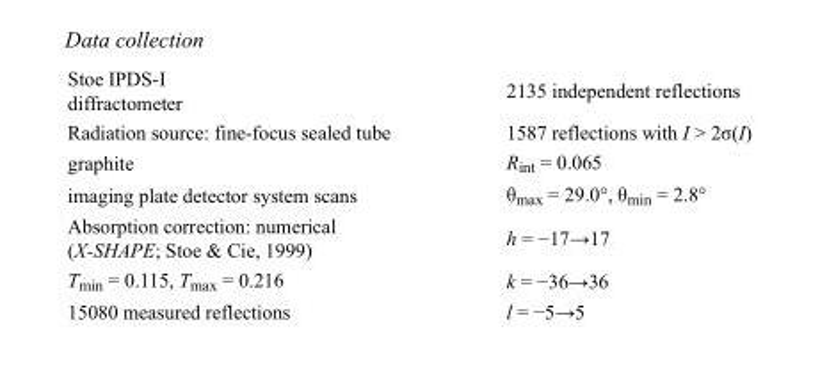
<table><tbody><tr><td>Stoe IPDS-I diffractometer</td><td>2135 independent reflections</td></tr><tr><td>Radiation source: fine-focus sealed tube</td><td>1587 reflections with I &gt; 2σ(I)</td></tr><tr><td>graphite</td><td>R<sub>int</sub> = 0.065</td></tr><tr><td>imaging plate detector system scans</td><td>θ<sub>max</sub> = 29.0°, θ<sub>min</sub> = 2.8°</td></tr><tr><td>Absorption correction: numerical (X-SHAPE; Stoe &amp; Cie, 1999)</td><td>h = −17→17</td></tr><tr><td>T<sub>min</sub> = 0.115, T<sub>max</sub> = 0.216</td><td>k = −36→36</td></tr><tr><td>15080 measured reflections</td><td>l = −5→5</td></tr></tbody></table>